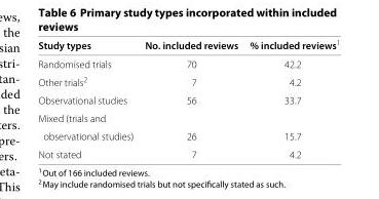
<table><thead><tr><td>Study types</td><td>No. included reviews</td><td>% included reviews<sup>1</sup></td></tr></thead><tbody><tr><td>Randomised trials</td><td>70</td><td>42.2</td></tr><tr><td>Other trials<sup>2</sup></td><td>7</td><td>4.2</td></tr><tr><td>Observational studies</td><td>56</td><td>33.7</td></tr><tr><td colspan="3">Mixed (trials and</td></tr><tr><td>observational studies)</td><td>26</td><td>15.7</td></tr><tr><td>Not stated</td><td>7</td><td>4.2</td></tr></tbody></table>